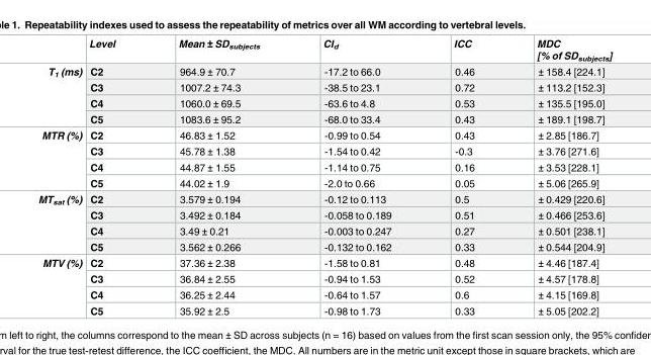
<table><thead><tr><td></td><td>Level</td><td>Mean ± SD<sub>subjects</sub></td><td>CI<sub>d</sub></td><td>ICC</td><td>MDC [% of SD<sub>subjects</sub>]</td></tr></thead><tbody><tr><td rowspan="4">T<sub>1</sub> (ms)</td><td>C2</td><td>964.9 ± 70.7</td><td>-17.2 to 66.0</td><td>0.46</td><td>± 158.4 [224.1]</td></tr><tr><td>C3</td><td>1007.2 ± 74.3</td><td>-38.5 to 23.1</td><td>0.72</td><td>± 113.2 [152.3]</td></tr><tr><td>C4</td><td>1060.0 ± 69.5</td><td>-63.6 to 4.8</td><td>0.53</td><td>± 135.5 [195.0]</td></tr><tr><td>C5</td><td>1083.6 ± 95.2</td><td>-68.0 to 33.4</td><td>0.43</td><td>± 189.1 [198.7]</td></tr><tr><td rowspan="4">MTR (%)</td><td>C2</td><td>46.83 ± 1.52</td><td>-0.99 to 0.54</td><td>0.43</td><td>± 2.85 [186.7]</td></tr><tr><td>C3</td><td>45.78 ± 1.38</td><td>-1.54 to 0.42</td><td>-0.3</td><td>± 3.76 [271.6]</td></tr><tr><td>C4</td><td>44.87 ± 1.55</td><td>-1.14 to 0.75</td><td>0.16</td><td>± 3.53 [228.1]</td></tr><tr><td>C5</td><td>44.02 ± 1.9</td><td>-2.0 to 0.66</td><td>0.05</td><td>± 5.06 [265.9]</td></tr><tr><td rowspan="4">MT<sub>sat</sub> (%)</td><td>C2</td><td>3.579 ± 0.194</td><td>-0.12 to 0.113</td><td>0.5</td><td>± 0.429 [220.6]</td></tr><tr><td>C3</td><td>3.492 ± 0.184</td><td>-0.058 to 0.189</td><td>0.51</td><td>± 0.466 [253.6]</td></tr><tr><td>C4</td><td>3.49 ± 0.21</td><td>-0.003 to 0.247</td><td>0.27</td><td>± 0.501 [238.1]</td></tr><tr><td>C5</td><td>3.562 ± 0.266</td><td>-0.132 to 0.162</td><td>0.33</td><td>± 0.544 [204.9]</td></tr><tr><td rowspan="4">MTV (%)</td><td>C2</td><td>37.36 ± 2.38</td><td>-1.58 to 0.81</td><td>0.48</td><td>± 4.46 [187.4]</td></tr><tr><td>C3</td><td>36.84 ± 2.55</td><td>-0.94 to 1.53</td><td>0.52</td><td>± 4.57 [178.8]</td></tr><tr><td>C4</td><td>36.25 ± 2.44</td><td>-0.64 to 1.57</td><td>0.6</td><td>± 4.15 [169.8]</td></tr><tr><td>C5</td><td>35.92 ± 2.5</td><td>-0.98 to 1.73</td><td>0.33</td><td>± 5.05 [202.2]</td></tr></tbody></table>